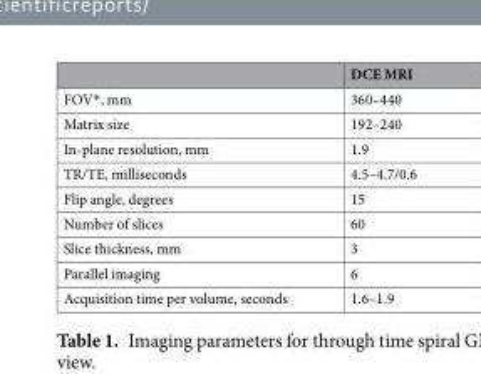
<table><thead><tr><td></td><td>DCE MRI</td></tr></thead><tbody><tr><td>FOV*, mm</td><td>360–440</td></tr><tr><td>Matrix size</td><td>192–240</td></tr><tr><td>In-plane resolution, mm</td><td>1.9</td></tr><tr><td>TR/TE, milliseconds</td><td>4.5–4.7/0.6</td></tr><tr><td>Flip angle, degrees</td><td>15</td></tr><tr><td>Number of slices</td><td>60</td></tr><tr><td>Slice thickness, mm</td><td>3</td></tr><tr><td>Parallel imaging</td><td>6</td></tr><tr><td>Acquisition time per volume, seconds</td><td>1.6–1.9</td></tr></tbody></table>